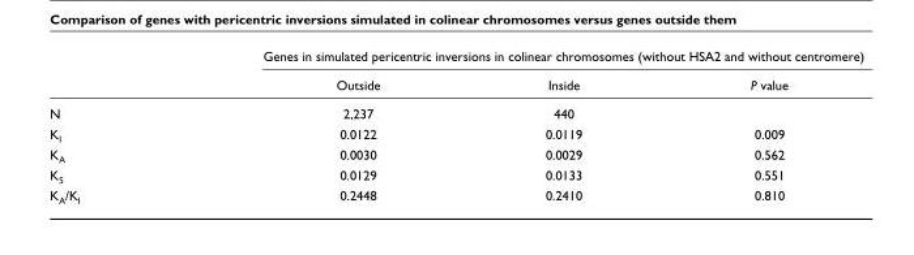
<table><thead><tr><td rowspan="2"></td><td colspan="3">Genes in simulated pericentric inversions in colinear chromosomes (without HSA2 and without centromere)</td></tr><tr><td>Outside</td><td>Inside</td><td>P value</td></tr></thead><tbody><tr><td>N</td><td>2,237</td><td>440</td><td></td></tr><tr><td>K<sub>I</sub></td><td>0.0122</td><td>0.0119</td><td>0.009</td></tr><tr><td>K<sub>A</sub></td><td>0.0030</td><td>0.0029</td><td>0.562</td></tr><tr><td>K<sub>S</sub></td><td>0.0129</td><td>0.0133</td><td>0.551</td></tr><tr><td>K<sub>A</sub>/K<sub>I</sub></td><td>0.2448</td><td>0.2410</td><td>0.810</td></tr></tbody></table>